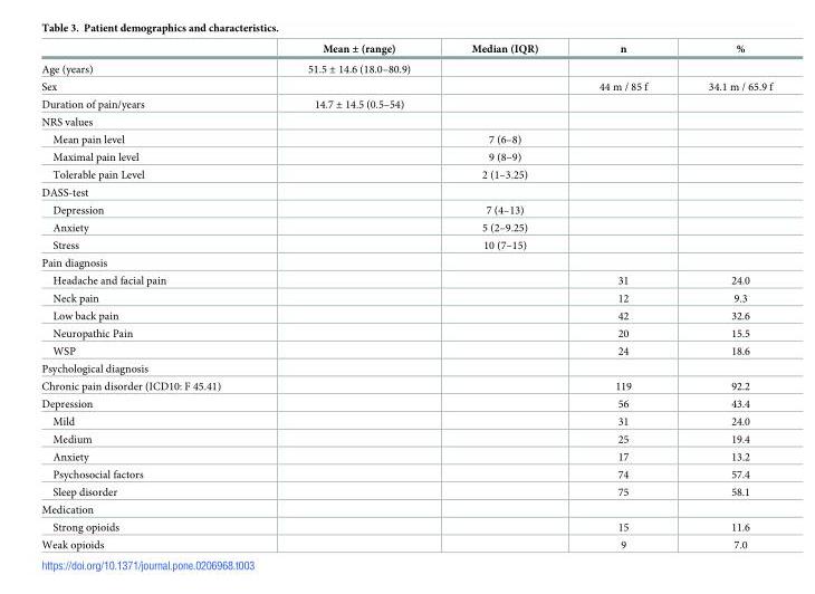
<table><thead><tr><td></td><td>Mean ± (range)</td><td>Median (IQR)</td><td>n</td><td>%</td></tr></thead><tbody><tr><td>Age (years)</td><td>51.5 ± 14.6 (18.0–80.9)</td><td></td><td></td><td></td></tr><tr><td>Sex</td><td></td><td></td><td>44 m / 85 f</td><td>34.1 m / 65.9 f</td></tr><tr><td>Duration of pain/years</td><td>14.7 ± 14.5 (0.5–54)</td><td></td><td></td><td></td></tr><tr><td colspan="5">NRS values</td></tr><tr><td>Mean pain level</td><td></td><td>7 (6–8)</td><td></td><td></td></tr><tr><td>Maximal pain level</td><td></td><td>9 (8–9)</td><td></td><td></td></tr><tr><td>Tolerable pain Level</td><td></td><td>2 (1–3.25)</td><td></td><td></td></tr><tr><td colspan="5">DASS-test</td></tr><tr><td>Depression</td><td></td><td>7 (4–13)</td><td></td><td></td></tr><tr><td>Anxiety</td><td></td><td>5 (2–9.25)</td><td></td><td></td></tr><tr><td>Stress</td><td></td><td>10 (7–15)</td><td></td><td></td></tr><tr><td colspan="5">Pain diagnosis</td></tr><tr><td>Headache and facial pain</td><td></td><td></td><td>31</td><td>24.0</td></tr><tr><td>Neck pain</td><td></td><td></td><td>12</td><td>9.3</td></tr><tr><td>Low back pain</td><td></td><td></td><td>42</td><td>32.6</td></tr><tr><td>Neuropathic Pain</td><td></td><td></td><td>20</td><td>15.5</td></tr><tr><td>WSP</td><td></td><td></td><td>24</td><td>18.6</td></tr><tr><td colspan="5">Psychological diagnosis</td></tr><tr><td>Chronic pain disorder (ICD10: F 45.41)</td><td></td><td></td><td>119</td><td>92.2</td></tr><tr><td>Depression</td><td></td><td></td><td>56</td><td>43.4</td></tr><tr><td>Mild</td><td></td><td></td><td>31</td><td>24.0</td></tr><tr><td>Medium</td><td></td><td></td><td>25</td><td>19.4</td></tr><tr><td>Anxiety</td><td></td><td></td><td>17</td><td>13.2</td></tr><tr><td>Psychosocial factors</td><td></td><td></td><td>74</td><td>57.4</td></tr><tr><td>Sleep disorder</td><td></td><td></td><td>75</td><td>58.1</td></tr><tr><td colspan="5">Medication</td></tr><tr><td>Strong opioids</td><td></td><td></td><td>15</td><td>11.6</td></tr><tr><td>Weak opioids</td><td></td><td></td><td>9</td><td>7.0</td></tr></tbody></table>